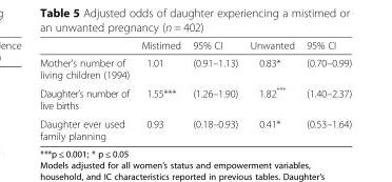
<table><thead><tr><td></td><td>Mistimed</td><td>95% CI</td><td>Unwanted</td><td>95% CI</td></tr></thead><tbody><tr><td>Mother’s number of living children (1994)</td><td>1.01</td><td>(0.91–1.13)</td><td>0.83*</td><td>(0.70–0.99)</td></tr><tr><td>Daughter’s number of live births</td><td>1.55***</td><td>(1.26–1.90)</td><td>1.82***</td><td>(1.40–2.37)</td></tr><tr><td>Daughter ever used family planning</td><td>0.93</td><td>(0.18–0.93)</td><td>0.41*</td><td>(0.53–1.64)</td></tr></tbody></table>